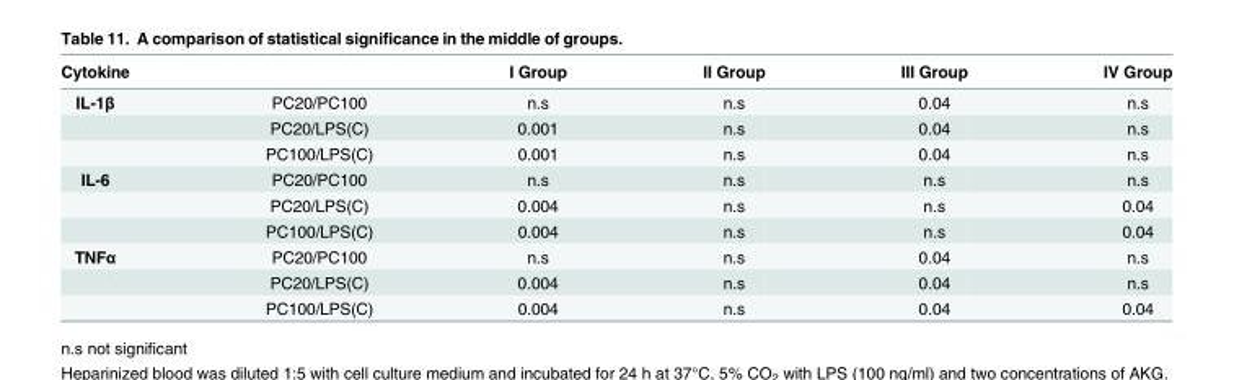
<table><thead><tr><td>Cytokine</td><td></td><td>I Group</td><td>II Group</td><td>III Group</td><td>IV Group</td></tr></thead><tbody><tr><td rowspan="3">IL-1β</td><td>PC20/PC100</td><td>n.s</td><td>n.s</td><td>0.04</td><td>n.s</td></tr><tr><td>PC20/LPS(C)</td><td>0.001</td><td>n.s</td><td>0.04</td><td>n.s</td></tr><tr><td>PC100/LPS(C)</td><td>0.001</td><td>n.s</td><td>0.04</td><td>n.s</td></tr><tr><td rowspan="3">IL-6</td><td>PC20/PC100</td><td>n.s</td><td>n.s</td><td>n.s</td><td>n.s</td></tr><tr><td>PC20/LPS(C)</td><td>0.004</td><td>n.s</td><td>n.s</td><td>0.04</td></tr><tr><td>PC100/LPS(C)</td><td>0.004</td><td>n.s</td><td>n.s</td><td>0.04</td></tr><tr><td rowspan="3">TNFα</td><td>PC20/PC100</td><td>n.s</td><td>n.s</td><td>0.04</td><td>n.s</td></tr><tr><td>PC20/LPS(C)</td><td>0.004</td><td>n.s</td><td>0.04</td><td>n.s</td></tr><tr><td>PC100/LPS(C)</td><td>0.004</td><td>n.s</td><td>0.04</td><td>0.04</td></tr></tbody></table>